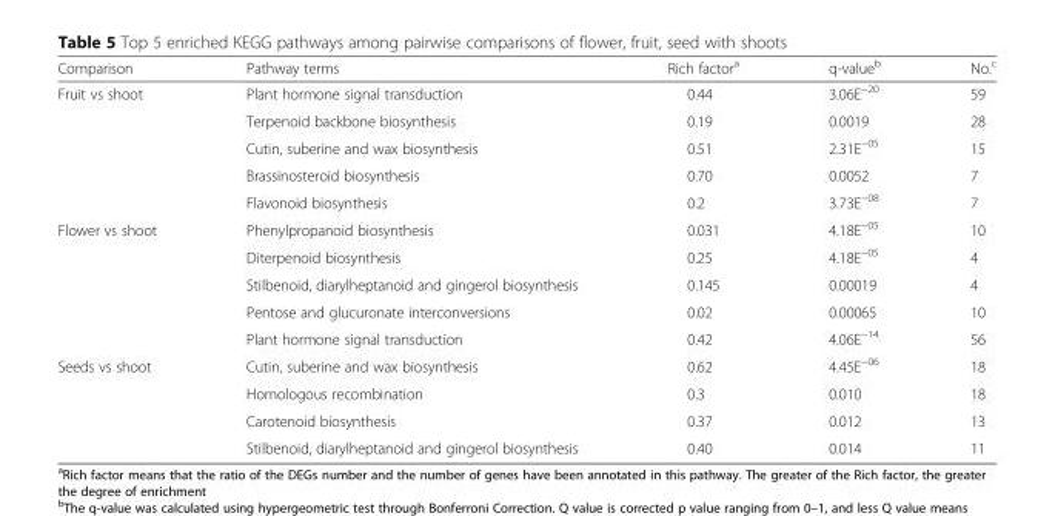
<table><thead><tr><td>Comparison</td><td>Pathway terms</td><td>Rich factor<sup>a</sup></td><td>q-value<sup>b</sup></td><td>No.<sup>c</sup></td></tr></thead><tbody><tr><td rowspan="5">Fruit vs shoot</td><td>Plant hormone signal transduction</td><td>0.44</td><td>3.06E<sup>−20</sup></td><td>59</td></tr><tr><td>Terpenoid backbone biosynthesis</td><td>0.19</td><td>0.0019</td><td>28</td></tr><tr><td>Cutin, suberine and wax biosynthesis</td><td>0.51</td><td>2.31E<sup>−05</sup></td><td>15</td></tr><tr><td>Brassinosteroid biosynthesis</td><td>0.70</td><td>0.0052</td><td>7</td></tr><tr><td>Flavonoid biosynthesis</td><td>0.2</td><td>3.73E<sup>−08</sup></td><td>7</td></tr><tr><td rowspan="5">Flower vs shoot</td><td>Phenylpropanoid biosynthesis</td><td>0.031</td><td>4.18E<sup>−05</sup></td><td>10</td></tr><tr><td>Diterpenoid biosynthesis</td><td>0.25</td><td>4.18E<sup>−05</sup></td><td>4</td></tr><tr><td>Stilbenoid, diarylheptanoid and gingerol biosynthesis</td><td>0.145</td><td>0.00019</td><td>4</td></tr><tr><td>Pentose and glucuronate interconversions</td><td>0.02</td><td>0.00065</td><td>10</td></tr><tr><td>Plant hormone signal transduction</td><td>0.42</td><td>4.06E<sup>−14</sup></td><td>56</td></tr><tr><td rowspan="4">Seeds vs shoot</td><td>Cutin, suberine and wax biosynthesis</td><td>0.62</td><td>4.45E<sup>−06</sup></td><td>18</td></tr><tr><td>Homologous recombination</td><td>0.3</td><td>0.010</td><td>18</td></tr><tr><td>Carotenoid biosynthesis</td><td>0.37</td><td>0.012</td><td>13</td></tr><tr><td>Stilbenoid, diarylheptanoid and gingerol biosynthesis</td><td>0.40</td><td>0.014</td><td>11</td></tr></tbody></table>